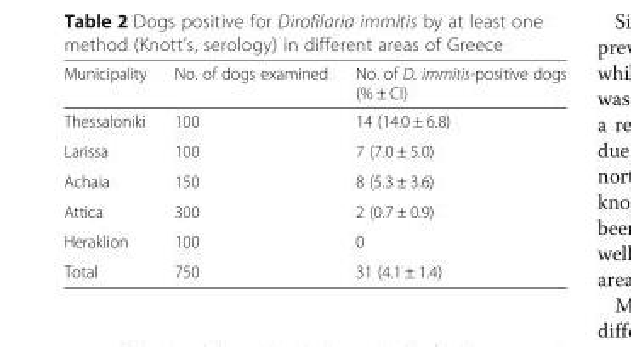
<table><thead><tr><td>Municipality</td><td>No. of dogs examined</td><td>No. of D. immitis-positive dogs (% ± CI)</td></tr></thead><tbody><tr><td>Thessaloniki</td><td>100</td><td>14 (14.0 ± 6.8)</td></tr><tr><td>Larissa</td><td>100</td><td>7 (7.0 ± 5.0)</td></tr><tr><td>Achaia</td><td>150</td><td>8 (5.3 ± 3.6)</td></tr><tr><td>Attica</td><td>300</td><td>2 (0.7 ± 0.9)</td></tr><tr><td>Heraklion</td><td>100</td><td>0</td></tr><tr><td>Total</td><td>750</td><td>31 (4.1 ± 1.4)</td></tr></tbody></table>